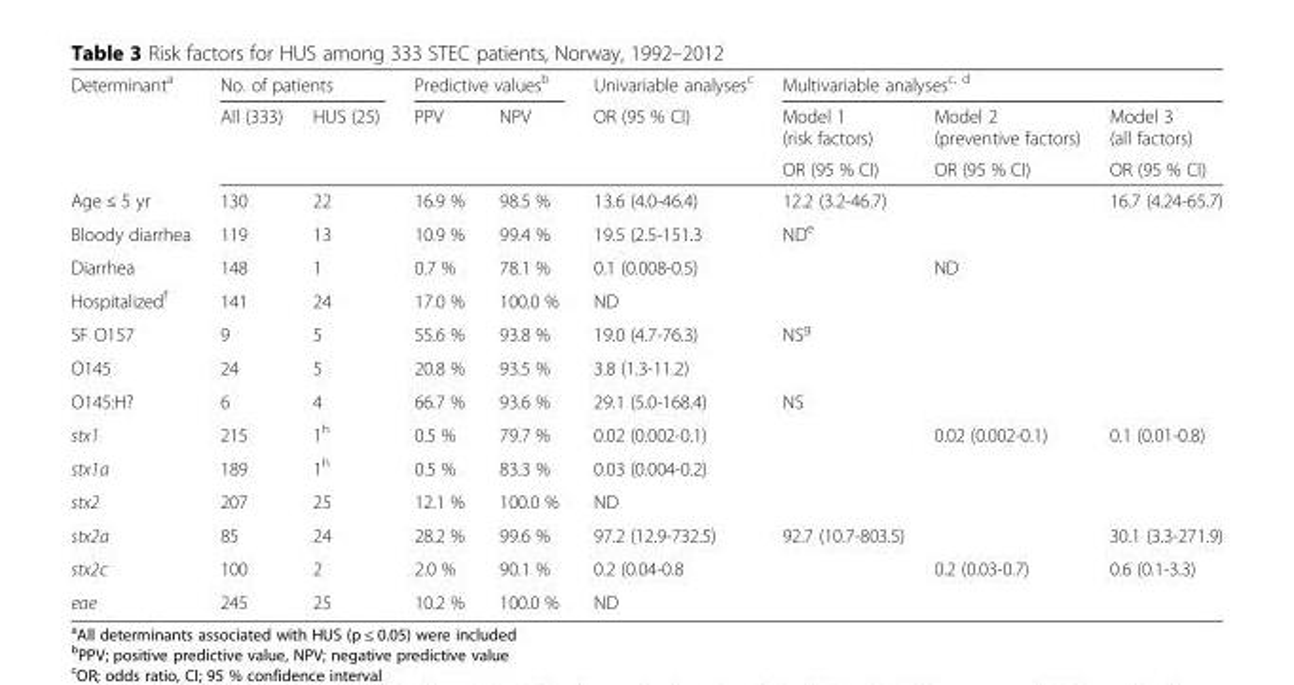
<table><thead><tr><td rowspan="3">Determinant<sup>a</sup></td><td colspan="2">No. of patients</td><td colspan="2">Predictive values<sup>b</sup></td><td rowspan="3">Univariable analyses<sup>c</sup> OR (95 % CI)</td><td colspan="3">Multivariable analyses<sup>c, d</sup></td></tr><tr><td rowspan="2">All (333)</td><td rowspan="2">HUS (25)</td><td rowspan="2">PPV</td><td rowspan="2">NPV</td><td rowspan="2">Model 1 (risk factors) OR (95 % CI)</td><td rowspan="2">Model 2 (preventive factors) OR (95 % CI)</td><td rowspan="2">Model 3 (all factors) OR (95 % CI)</td></tr><tr></tr></thead><tbody><tr><td>Age ≤ 5 yr</td><td>130</td><td>22</td><td>16.9 %</td><td>98.5 %</td><td>13.6 (4.0-46.4)</td><td>12.2 (3.2-46.7)</td><td></td><td>16.7 (4.24-65.7)</td></tr><tr><td>Bloody diarrhea</td><td>119</td><td>13</td><td>10.9 %</td><td>99.4 %</td><td>19.5 (2.5-151.3</td><td>ND<sup>e</sup></td><td></td><td></td></tr><tr><td>Diarrhea</td><td>148</td><td>1</td><td>0.7 %</td><td>78.1 %</td><td>0.1 (0.008-0.5)</td><td></td><td>ND</td><td></td></tr><tr><td>Hospitalized<sup>f</sup></td><td>141</td><td>24</td><td>17.0 %</td><td>100.0 %</td><td>ND</td><td></td><td></td><td></td></tr><tr><td>SF O157</td><td>9</td><td>5</td><td>55.6 %</td><td>93.8 %</td><td>19.0 (4.7-76.3)</td><td>NS<sup>g</sup></td><td></td><td></td></tr><tr><td>O145</td><td>24</td><td>5</td><td>20.8 %</td><td>93.5 %</td><td>3.8 (1.3-11.2)</td><td></td><td></td><td></td></tr><tr><td>O145:H?</td><td>6</td><td>4</td><td>66.7 %</td><td>93.6 %</td><td>29.1 (5.0-168.4)</td><td>NS</td><td></td><td></td></tr><tr><td>stx1</td><td>215</td><td>1<sup>h</sup></td><td>0.5 %</td><td>79.7 %</td><td>0.02 (0.002-0.1)</td><td></td><td>0.02 (0.002-0.1)</td><td>0.1 (0.01-0.8)</td></tr><tr><td>stx1a</td><td>189</td><td>1<sup>h</sup></td><td>0.5 %</td><td>83.3 %</td><td>0.03 (0.004-0.2)</td><td></td><td></td><td></td></tr><tr><td>stx2</td><td>207</td><td>25</td><td>12.1 %</td><td>100.0 %</td><td>ND</td><td></td><td></td><td></td></tr><tr><td>stx2a</td><td>85</td><td>24</td><td>28.2 %</td><td>99.6 %</td><td>97.2 (12.9-732.5)</td><td>92.7 (10.7-803.5)</td><td></td><td>30.1 (3.3-271.9)</td></tr><tr><td>stx2c</td><td>100</td><td>2</td><td>2.0 %</td><td>90.1 %</td><td>0.2 (0.04-0.8</td><td></td><td>0.2 (0.03-0.7)</td><td>0.6 (0.1-3.3)</td></tr><tr><td>eae</td><td>245</td><td>25</td><td>10.2 %</td><td>100.0 %</td><td>ND</td><td></td><td></td><td></td></tr></tbody></table>